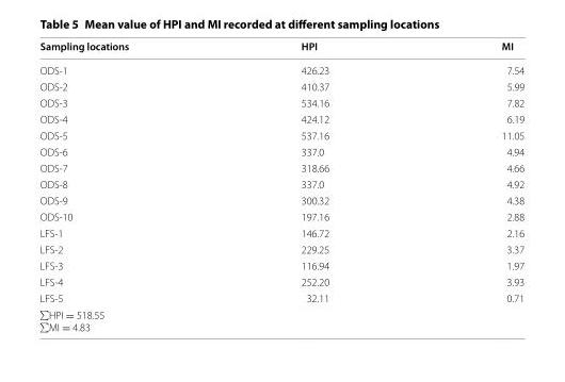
<table><thead><tr><td>Sampling locations</td><td>HPI</td><td>MI</td></tr></thead><tbody><tr><td>ODS-1</td><td>426.23</td><td>7.54</td></tr><tr><td>ODS-2</td><td>410.37</td><td>5.99</td></tr><tr><td>ODS-3</td><td>534.16</td><td>7.82</td></tr><tr><td>ODS-4</td><td>424.12</td><td>6.19</td></tr><tr><td>ODS-5</td><td>537.16</td><td>11.05</td></tr><tr><td>ODS-6</td><td>337.0</td><td>4.94</td></tr><tr><td>ODS-7</td><td>318.66</td><td>4.66</td></tr><tr><td>ODS-8</td><td>337.0</td><td>4.92</td></tr><tr><td>ODS-9</td><td>300.32</td><td>4.38</td></tr><tr><td>ODS-10</td><td>197.16</td><td>2.88</td></tr><tr><td>LFS-1</td><td>146.72</td><td>2.16</td></tr><tr><td>LFS-2</td><td>229.25</td><td>3.37</td></tr><tr><td>LFS-3</td><td>116.94</td><td>1.97</td></tr><tr><td>LFS-4</td><td>252.20</td><td>3.93</td></tr><tr><td>LFS-5</td><td>32.11</td><td>0.71</td></tr><tr><td colspan="3">∑HPI = 518.55 ∑MI = 4.83</td></tr></tbody></table>